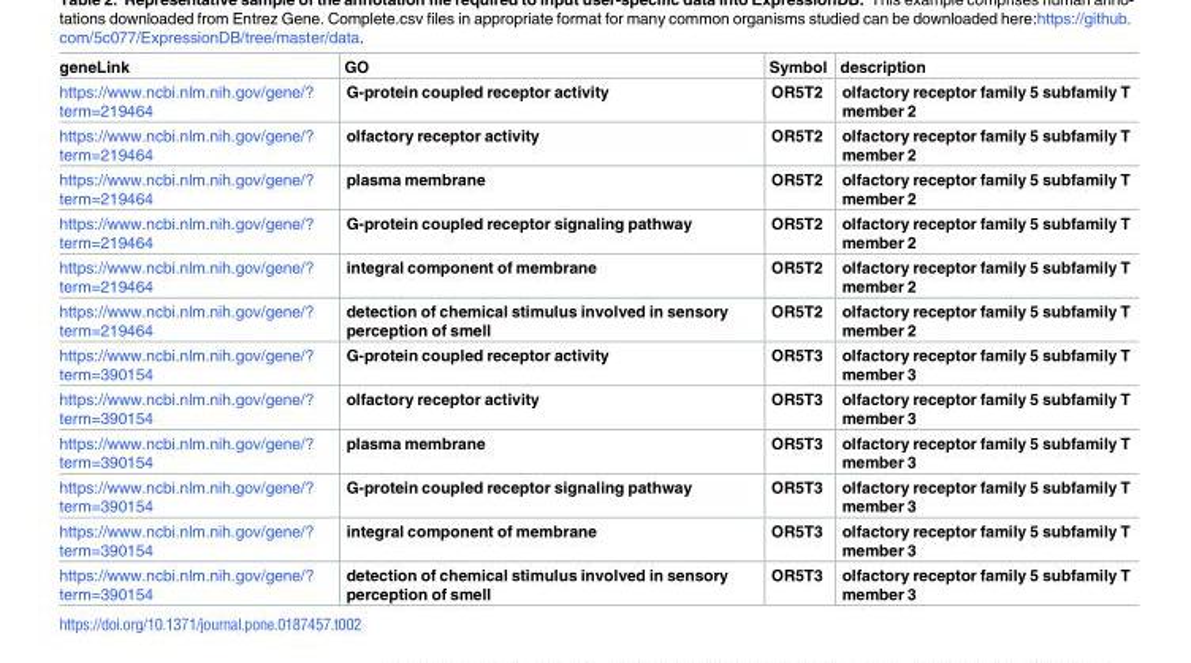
<table><thead><tr><td>geneLink</td><td>GO</td><td>Symbol</td><td>description</td></tr></thead><tbody><tr><td>https://www.ncbi.nlm.nih.gov/gene/? term=219464</td><td>G-protein coupled receptor activity</td><td>OR5T2</td><td>olfactory receptor family 5 subfamily T member 2</td></tr><tr><td>https://www.ncbi.nlm.nih.gov/gene/? term=219464</td><td>olfactory receptor activity</td><td>OR5T2</td><td>olfactory receptor family 5 subfamily T member 2</td></tr><tr><td>https://www.ncbi.nlm.nih.gov/gene/? term=219464</td><td>plasma membrane</td><td>OR5T2</td><td>olfactory receptor family 5 subfamily T member 2</td></tr><tr><td>https://www.ncbi.nlm.nih.gov/gene/? term=219464</td><td>G-protein coupled receptor signaling pathway</td><td>OR5T2</td><td>olfactory receptor family 5 subfamily T member 2</td></tr><tr><td>https://www.ncbi.nlm.nih.gov/gene/? term=219464</td><td>integral component of membrane</td><td>OR5T2</td><td>olfactory receptor family 5 subfamily T member 2</td></tr><tr><td>https://www.ncbi.nlm.nih.gov/gene/? term=219464</td><td>detection of chemical stimulus involved in sensory perception of smell</td><td>OR5T2</td><td>olfactory receptor family 5 subfamily T member 2</td></tr><tr><td>https://www.ncbi.nlm.nih.gov/gene/? term=390154</td><td>G-protein coupled receptor activity</td><td>OR5T3</td><td>olfactory receptor family 5 subfamily T member 3</td></tr><tr><td>https://www.ncbi.nlm.nih.gov/gene/? term=390154</td><td>olfactory receptor activity</td><td>OR5T3</td><td>olfactory receptor family 5 subfamily T member 3</td></tr><tr><td>https://www.ncbi.nlm.nih.gov/gene/? term=390154</td><td>plasma membrane</td><td>OR5T3</td><td>olfactory receptor family 5 subfamily T member 3</td></tr><tr><td>https://www.ncbi.nlm.nih.gov/gene/? term=390154</td><td>G-protein coupled receptor signaling pathway</td><td>OR5T3</td><td>olfactory receptor family 5 subfamily T member 3</td></tr><tr><td>https://www.ncbi.nlm.nih.gov/gene/? term=390154</td><td>integral component of membrane</td><td>OR5T3</td><td>olfactory receptor family 5 subfamily T member 3</td></tr><tr><td>https://www.ncbi.nlm.nih.gov/gene/? term=390154</td><td>detection of chemical stimulus involved in sensory perception of smell</td><td>OR5T3</td><td>olfactory receptor family 5 subfamily T member 3</td></tr></tbody></table>